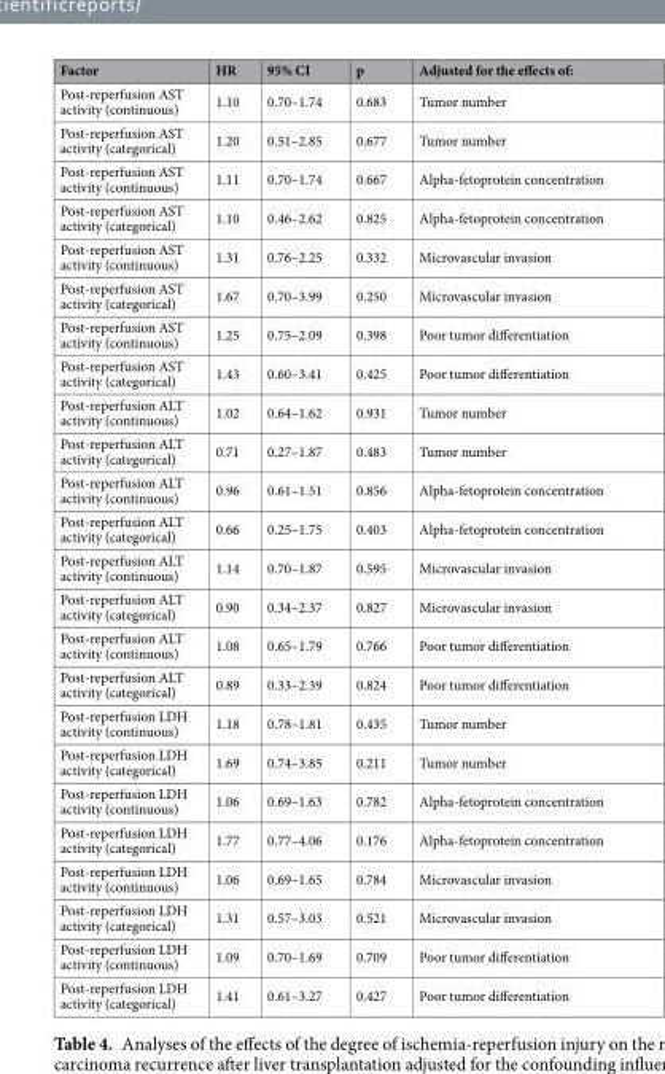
<table><thead><tr><td>Factor</td><td>HR</td><td>95% CI</td><td>p</td><td>Adjusted for the effects of:</td></tr></thead><tbody><tr><td>Post-reperfusion AST activity (continuous)</td><td>1.10</td><td>0.70–1.74</td><td>0.683</td><td>Tumor number</td></tr><tr><td>Post-reperfusion AST activity (categorical)</td><td>1.20</td><td>0.51–2.85</td><td>0.677</td><td>Tumor number</td></tr><tr><td>Post-reperfusion AST activity (continuous)</td><td>1.11</td><td>0.70–1.74</td><td>0.667</td><td>Alpha-fetoprotein concentration</td></tr><tr><td>Post-reperfusion AST activity (categorical)</td><td>1.10</td><td>0.46–2.62</td><td>0.825</td><td>Alpha-fetoprotein concentration</td></tr><tr><td>Post-reperfusion AST activity (continuous)</td><td>1.31</td><td>0.76–2.25</td><td>0.332</td><td>Microvascular invasion</td></tr><tr><td>Post-reperfusion AST activity (categorical)</td><td>1.67</td><td>0.70–3.99</td><td>0.250</td><td>Microvascular invasion</td></tr><tr><td>Post-reperfusion AST activity (continuous)</td><td>1.25</td><td>0.75–2.09</td><td>0.398</td><td>Poor tumor differentiation</td></tr><tr><td>Post-reperfusion AST activity (categorical)</td><td>1.43</td><td>0.60–3.41</td><td>0.425</td><td>Poor tumor differentiation</td></tr><tr><td>Post-reperfusion ALT activity (continuous)</td><td>1.02</td><td>0.64–1.62</td><td>0.931</td><td>Tumor number</td></tr><tr><td>Post-reperfusion ALT activity (categorical)</td><td>0.71</td><td>0.27–1.87</td><td>0.483</td><td>Tumor number</td></tr><tr><td>Post-reperfusion ALT activity (continuous)</td><td>0.96</td><td>0.61–1.51</td><td>0.856</td><td>Alpha-fetoprotein concentration</td></tr><tr><td>Post-reperfusion ALT activity (categorical)</td><td>0.66</td><td>0.25–1.75</td><td>0.403</td><td>Alpha-fetoprotein concentration</td></tr><tr><td>Post-reperfusion ALT activity (continuous)</td><td>1.14</td><td>0.70–1.87</td><td>0.595</td><td>Microvascular invasion</td></tr><tr><td>Post-reperfusion ALT activity (categorical)</td><td>0.90</td><td>0.34–2.37</td><td>0.827</td><td>Microvascular invasion</td></tr><tr><td>Post-reperfusion ALT activity (continuous)</td><td>1.08</td><td>0.65–1.79</td><td>0.766</td><td>Poor tumor differentiation</td></tr><tr><td>Post-reperfusion ALT activity (categorical)</td><td>0.89</td><td>0.33–2.39</td><td>0.824</td><td>Poor tumor differentiation</td></tr><tr><td>Post-reperfusion LDH activity (continuous)</td><td>1.18</td><td>0.78–1.81</td><td>0.435</td><td>Tumor number</td></tr><tr><td>Post-reperfusion LDH activity (categorical)</td><td>1.69</td><td>0.74–3.85</td><td>0.211</td><td>Tumor number</td></tr><tr><td>Post-reperfusion LDH activity (continuous)</td><td>1.06</td><td>0.69–1.63</td><td>0.782</td><td>Alpha-fetoprotein concentration</td></tr><tr><td>Post-reperfusion LDH activity (categorical)</td><td>1.77</td><td>0.77–4.06</td><td>0.176</td><td>Alpha-fetoprotein concentration</td></tr><tr><td>Post-reperfusion LDH activity (continuous)</td><td>1.06</td><td>0.69–1.65</td><td>0.784</td><td>Microvascular invasion</td></tr><tr><td>Post-reperfusion LDH activity (categorical)</td><td>1.31</td><td>0.57–3.03</td><td>0.521</td><td>Microvascular invasion</td></tr><tr><td>Post-reperfusion LDH activity (continuous)</td><td>1.09</td><td>0.70–1.69</td><td>0.709</td><td>Poor tumor differentiation</td></tr><tr><td>Post-reperfusion LDH activity (categorical)</td><td>1.41</td><td>0.61–3.27</td><td>0.427</td><td>Poor tumor differentiation</td></tr></tbody></table>